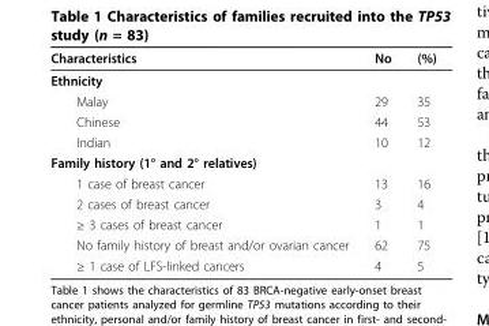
<table><thead><tr><td>Characteristics</td><td>No</td><td>(%)</td></tr></thead><tbody><tr><td colspan="3">Ethnicity</td></tr><tr><td>Malay</td><td>29</td><td>35</td></tr><tr><td>Chinese</td><td>44</td><td>53</td></tr><tr><td>Indian</td><td>10</td><td>12</td></tr><tr><td colspan="3">Family history (1° and 2° relatives)</td></tr><tr><td>1 case of breast cancer</td><td>13</td><td>16</td></tr><tr><td>2 cases of breast cancer</td><td>3</td><td>4</td></tr><tr><td>≥ 3 cases of breast cancer</td><td>1</td><td>1</td></tr><tr><td>No family history of breast and/or ovarian cancer</td><td>62</td><td>75</td></tr><tr><td>≥ 1 case of LFS-linked cancers</td><td>4</td><td>5</td></tr></tbody></table>